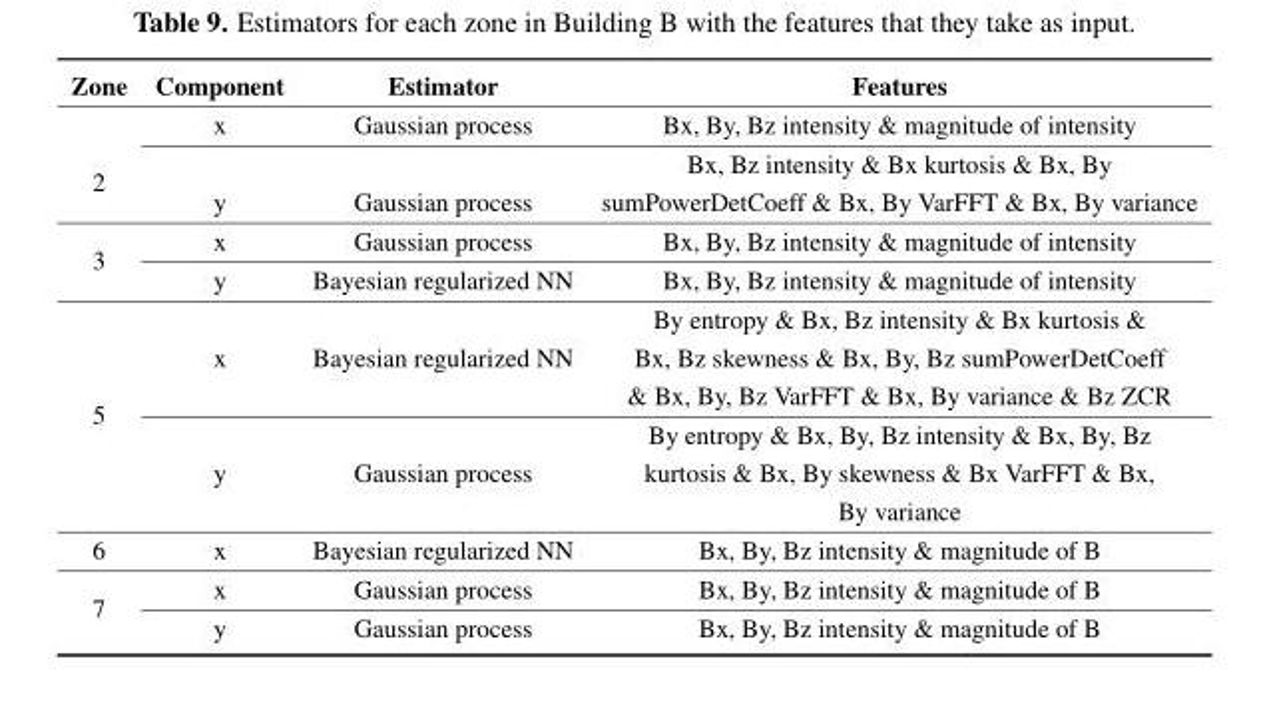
<table><thead><tr><td>Zone</td><td>Component</td><td>Estimator</td><td>Features</td></tr></thead><tbody><tr><td rowspan="2">2</td><td>x</td><td>Gaussian process</td><td>Bx, By, Bz intensity &amp; magnitude of intensity</td></tr><tr><td>y</td><td>Gaussian process</td><td>Bx, Bz intensity &amp; Bx kurtosis &amp; Bx, By sumPowerDetCoeff &amp; Bx, By VarFFT &amp; Bx, By variance</td></tr><tr><td rowspan="2">3</td><td>x</td><td>Gaussian process</td><td>Bx, By, Bz intensity &amp; magnitude of intensity</td></tr><tr><td>y</td><td>Bayesian regularized NN</td><td>Bx, By, Bz intensity &amp; magnitude of intensity</td></tr><tr><td rowspan="2">5</td><td>x</td><td>Bayesian regularized NN</td><td>By entropy &amp; Bx, Bz intensity &amp; Bx kurtosis &amp; Bx, Bz skewness &amp; Bx, By, Bz sumPowerDetCoeff &amp; Bx, By, Bz VarFFT &amp; Bx, By variance &amp; Bz ZCR</td></tr><tr><td>y</td><td>Gaussian process</td><td>By entropy &amp; Bx, By, Bz intensity &amp; Bx, By, Bz kurtosis &amp; Bx, By skewness &amp; Bx VarFFT &amp; Bx, By variance</td></tr><tr><td>6</td><td>x</td><td>Bayesian regularized NN</td><td>Bx, By, Bz intensity &amp; magnitude of B</td></tr><tr><td rowspan="2">7</td><td>x</td><td>Gaussian process</td><td>Bx, By, Bz intensity &amp; magnitude of B</td></tr><tr><td>y</td><td>Gaussian process</td><td>Bx, By, Bz intensity &amp; magnitude of B</td></tr></tbody></table>